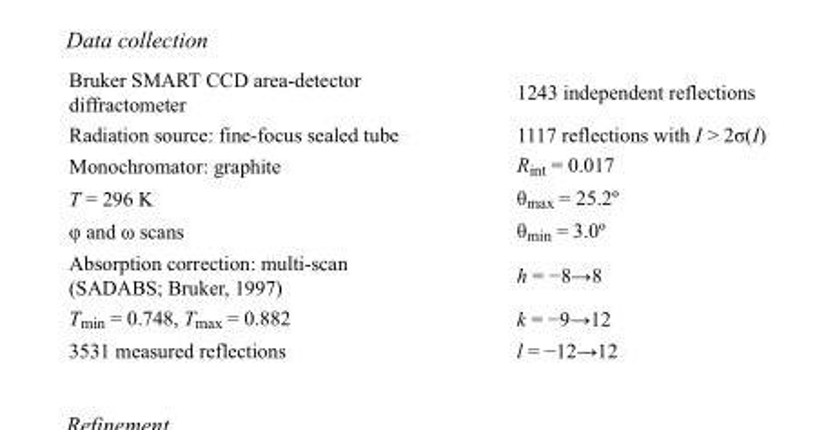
<table><tbody><tr><td>Bruker SMART CCD area-detector diffractometer</td><td>1243 independent reflections</td></tr><tr><td>Radiation source: fine-focus sealed tube</td><td>1117 reflections with I &gt; 2σ(I)</td></tr><tr><td>Monochromator: graphite</td><td>R<sub>int</sub> = 0.017</td></tr><tr><td>T = 296 K</td><td>θ<sub>max</sub> = 25.2º</td></tr><tr><td>φ and ω scans</td><td>θ<sub>min</sub> = 3.0º</td></tr><tr><td>Absorption correction: multi-scan (SADABS; Bruker, 1997)</td><td>h = −8→8</td></tr><tr><td>T<sub>min</sub> = 0.748, T<sub>max</sub> = 0.882</td><td>k = −9→12</td></tr><tr><td>3531 measured reflections</td><td>l = −12→12</td></tr></tbody></table>